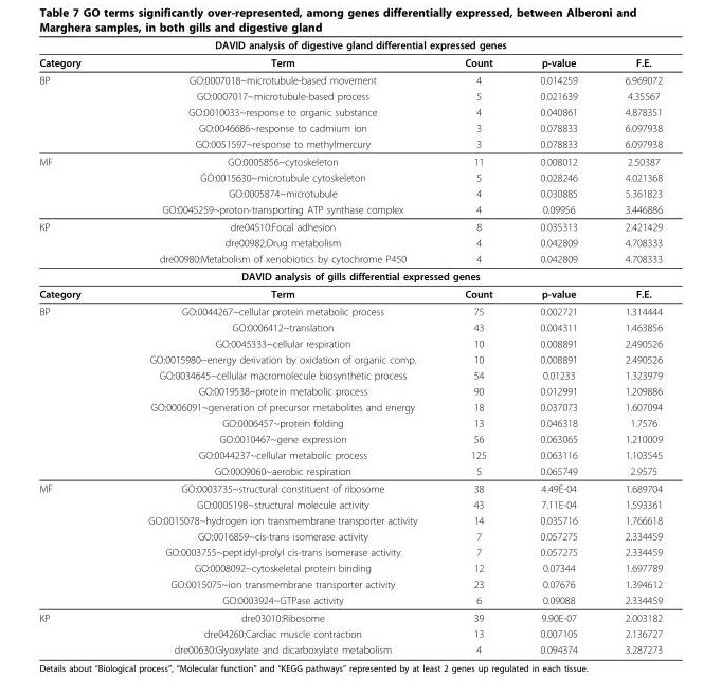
<table><thead><tr><td colspan="5">DAVID analysis of digestive gland differential expressed genes</td></tr><tr><td>Category</td><td>Term</td><td>Count</td><td>p-value</td><td>F.E.</td></tr></thead><tbody><tr><td rowspan="5">BP</td><td>GO:0007018~microtubule-based movement</td><td>4</td><td>0.014259</td><td>6.969072</td></tr><tr><td>GO:0007017~microtubule-based process</td><td>5</td><td>0.021639</td><td>4.35567</td></tr><tr><td>GO:0010033~response to organic substance</td><td>4</td><td>0.040861</td><td>4.878351</td></tr><tr><td>GO:0046686~response to cadmium ion</td><td>3</td><td>0.078833</td><td>6.097938</td></tr><tr><td>GO:0051597~response to methylmercury</td><td>3</td><td>0.078833</td><td>6.097938</td></tr><tr><td rowspan="4">MF</td><td>GO:0005856~cytoskeleton</td><td>11</td><td>0.008012</td><td>2.50387</td></tr><tr><td>GO:0015630~microtubule cytoskeleton</td><td>5</td><td>0.028246</td><td>4.021368</td></tr><tr><td>GO:0005874~microtubule</td><td>4</td><td>0.030885</td><td>5.361823</td></tr><tr><td>GO:0045259~proton-transporting ATP synthase complex</td><td>4</td><td>0.09956</td><td>3.446886</td></tr><tr><td rowspan="3">KP</td><td>dre04510:Focal adhesion</td><td>8</td><td>0.035313</td><td>2.421429</td></tr><tr><td>dre00982:Drug metabolism</td><td>4</td><td>0.042809</td><td>4.708333</td></tr><tr><td>dre00980:Metabolism of xenobiotics by cytochrome P450</td><td>4</td><td>0.042809</td><td>4.708333</td></tr><tr><td colspan="5">DAVID analysis of gills differential expressed genes</td></tr><tr><td>Category</td><td>Term</td><td>Count</td><td>p-value</td><td>F.E.</td></tr><tr><td rowspan="11">BP</td><td>GO:0044267~cellular protein metabolic process</td><td>75</td><td>0.002721</td><td>1.314444</td></tr><tr><td>GO:0006412~translation</td><td>43</td><td>0.004311</td><td>1.463856</td></tr><tr><td>GO:0045333~cellular respiration</td><td>10</td><td>0.008891</td><td>2.490526</td></tr><tr><td>GO:0015980~energy derivation by oxidation of organic comp.</td><td>10</td><td>0.008891</td><td>2.490526</td></tr><tr><td>GO:0034645~cellular macromolecule biosynthetic process</td><td>54</td><td>0.01233</td><td>1.323979</td></tr><tr><td>GO:0019538~protein metabolic process</td><td>90</td><td>0.012991</td><td>1.209886</td></tr><tr><td>GO:0006091~generation of precursor metabolites and energy</td><td>18</td><td>0.037073</td><td>1.607094</td></tr><tr><td>GO:0006457~protein folding</td><td>13</td><td>0.046318</td><td>1.7576</td></tr><tr><td>GO:0010467~gene expression</td><td>56</td><td>0.063065</td><td>1.210009</td></tr><tr><td>GO:0044237~cellular metabolic process</td><td>125</td><td>0.063116</td><td>1.103545</td></tr><tr><td>GO:0009060~aerobic respiration</td><td>5</td><td>0.065749</td><td>2.9575</td></tr><tr><td rowspan="8">MF</td><td>GO:0003735~structural constituent of ribosome</td><td>38</td><td>4.49E-04</td><td>1.689704</td></tr><tr><td>GO:0005198~structural molecule activity</td><td>43</td><td>7.11E-04</td><td>1.593361</td></tr><tr><td>GO:0015078~hydrogen ion transmembrane transporter activity</td><td>14</td><td>0.035716</td><td>1.766618</td></tr><tr><td>GO:0016859~cis-trans isomerase activity</td><td>7</td><td>0.057275</td><td>2.334459</td></tr><tr><td>GO:0003755~peptidyl-prolyl cis-trans isomerase activity</td><td>7</td><td>0.057275</td><td>2.334459</td></tr><tr><td>GO:0008092~cytoskeletal protein binding</td><td>12</td><td>0.07344</td><td>1.697789</td></tr><tr><td>GO:0015075~ion transmembrane transporter activity</td><td>23</td><td>0.07676</td><td>1.394612</td></tr><tr><td>GO:0003924~GTPase activity</td><td>6</td><td>0.09088</td><td>2.334459</td></tr><tr><td rowspan="3">KP</td><td>dre03010:Ribosome</td><td>39</td><td>9.90E-07</td><td>2.003182</td></tr><tr><td>dre04260:Cardiac muscle contraction</td><td>13</td><td>0.007105</td><td>2.136727</td></tr><tr><td>dre00630:Glyoxylate and dicarboxylate metabolism</td><td>4</td><td>0.094374</td><td>3.287273</td></tr></tbody></table>